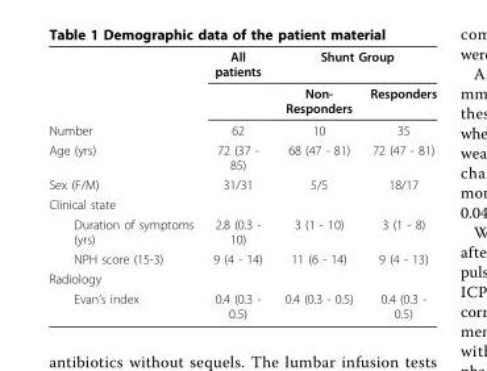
<table><thead><tr><td rowspan="2"></td><td rowspan="2">All patients</td><td colspan="2">Shunt Group</td></tr><tr><td>Non- Responders</td><td>Responders</td></tr></thead><tbody><tr><td>Number</td><td>62</td><td>10</td><td>35</td></tr><tr><td>Age (yrs)</td><td>72 (37 - 85)</td><td>68 (47 - 81)</td><td>72 (47 - 81)</td></tr><tr><td>Sex (F/M)</td><td>31/31</td><td>5/5</td><td>18/17</td></tr><tr><td colspan="4">Clinical state</td></tr><tr><td>Duration of symptoms (yrs)</td><td>2.8 (0.3 - 10)</td><td>3 (1 - 10)</td><td>3 (1 - 8)</td></tr><tr><td>NPH score (15-3)</td><td>9 (4 - 14)</td><td>11 (6 - 14)</td><td>9 (4 - 13)</td></tr><tr><td colspan="4">Radiology</td></tr><tr><td>Evan’s index</td><td>0.4 (0.3 - 0.5)</td><td>0.4 (0.3 - 0.5)</td><td>0.4 (0.3 - 0.5)</td></tr></tbody></table>